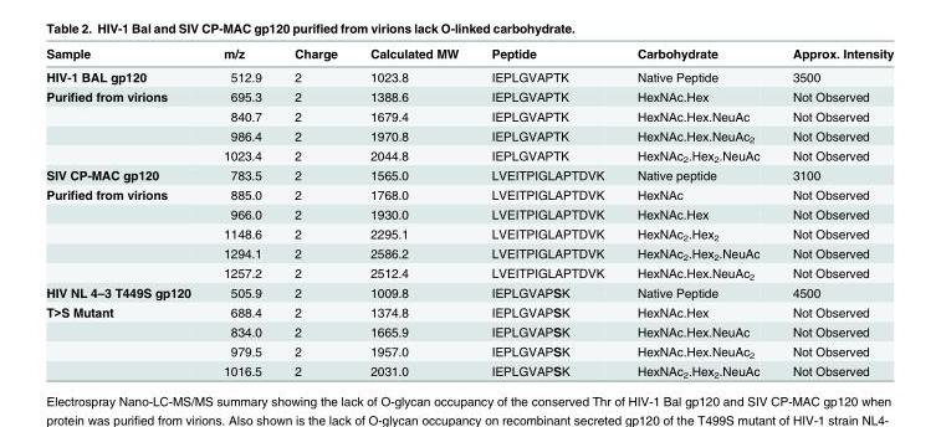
<table><thead><tr><td>Sample</td><td>m/z</td><td>Charge</td><td>Calculated MW</td><td>Peptide</td><td>Carbohydrate</td><td>Approx. Intensity</td></tr></thead><tbody><tr><td>HIV-1 BAL gp120</td><td>512.9</td><td>2</td><td>1023.8</td><td>IEPLGVAPTK</td><td>Native Peptide</td><td>3500</td></tr><tr><td rowspan="4">Purified from virions</td><td>695.3</td><td>2</td><td>1388.6</td><td>IEPLGVAPTK</td><td>HexNAc.Hex</td><td>Not Observed</td></tr><tr><td>840.7</td><td>2</td><td>1679.4</td><td>IEPLGVAPTK</td><td>HexNAc.Hex.NeuAc</td><td>Not Observed</td></tr><tr><td>986.4</td><td>2</td><td>1970.8</td><td>IEPLGVAPTK</td><td>HexNAc.Hex.NeuAc<sub>2</sub></td><td>Not Observed</td></tr><tr><td>1023.4</td><td>2</td><td>2044.8</td><td>IEPLGVAPTK</td><td>HexNAc<sub>2</sub>.Hex<sub>2</sub>.NeuAc</td><td>Not Observed</td></tr><tr><td>SIV CP-MAC gp120</td><td>783.5</td><td>2</td><td>1565.0</td><td>LVEITPIGLAPTDVK</td><td>Native peptide</td><td>3100</td></tr><tr><td rowspan="5">Purified from virions</td><td>885.0</td><td>2</td><td>1768.0</td><td>LVEITPIGLAPTDVK</td><td>HexNAc</td><td>Not Observed</td></tr><tr><td>966.0</td><td>2</td><td>1930.0</td><td>LVEITPIGLAPTDVK</td><td>HexNAc.Hex</td><td>Not Observed</td></tr><tr><td>1148.6</td><td>2</td><td>2295.1</td><td>LVEITPIGLAPTDVK</td><td>HexNAc<sub>2</sub>.Hex<sub>2</sub></td><td>Not Observed</td></tr><tr><td>1294.1</td><td>2</td><td>2586.2</td><td>LVEITPIGLAPTDVK</td><td>HexNAc<sub>2</sub>.Hex<sub>2</sub>.NeuAc</td><td>Not Observed</td></tr><tr><td>1257.2</td><td>2</td><td>2512.4</td><td>LVEITPIGLAPTDVK</td><td>HexNAc.Hex.NeuAc<sub>2</sub></td><td>Not Observed</td></tr><tr><td>HIV NL 4–3 T449S gp120</td><td>505.9</td><td>2</td><td>1009.8</td><td>IEPLGVAPSK</td><td>Native Peptide</td><td>4500</td></tr><tr><td rowspan="4">T&gt;S Mutant</td><td>688.4</td><td>2</td><td>1374.8</td><td>IEPLGVAPSK</td><td>HexNAc.Hex</td><td>Not Observed</td></tr><tr><td>834.0</td><td>2</td><td>1665.9</td><td>IEPLGVAPSK</td><td>HexNAc.Hex.NeuAc</td><td>Not Observed</td></tr><tr><td>979.5</td><td>2</td><td>1957.0</td><td>IEPLGVAPSK</td><td>HexNAc.Hex.NeuAc<sub>2</sub></td><td>Not Observed</td></tr><tr><td>1016.5</td><td>2</td><td>2031.0</td><td>IEPLGVAPSK</td><td>HexNAc<sub>2</sub>.Hex<sub>2</sub>.NeuAc</td><td>Not Observed</td></tr></tbody></table>